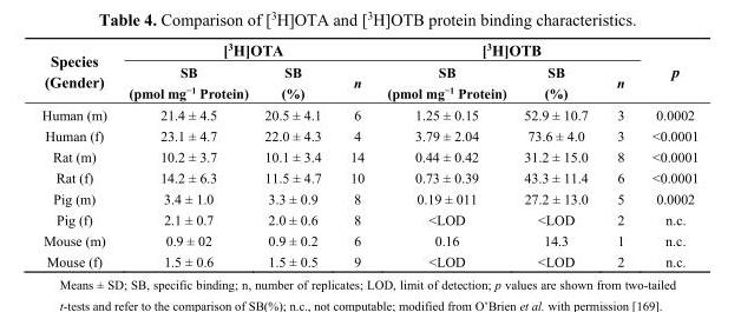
<table><thead><tr><td rowspan="2">Species (Gender)</td><td colspan="3">[<sup>3</sup>H]OTA</td><td colspan="3">[<sup>3</sup>H]OTB</td><td rowspan="2">p</td></tr><tr><td>SB (pmol mg<sup>−1</sup> Protein)</td><td>SB (%)</td><td>n</td><td>SB (pmol mg<sup>−1</sup> Protein)</td><td>SB (%)</td><td>n</td></tr></thead><tbody><tr><td>Human (m)</td><td>21.4 ± 4.5</td><td>20.5 ± 4.1</td><td>6</td><td>1.25 ± 0.15</td><td>52.9 ± 10.7</td><td>3</td><td>0.0002</td></tr><tr><td>Human (f)</td><td>23.1 ± 4.7</td><td>22.0 ± 4.3</td><td>4</td><td>3.79 ± 2.04</td><td>73.6 ± 4.0</td><td>3</td><td>&lt;0.0001</td></tr><tr><td>Rat (m)</td><td>10.2 ± 3.7</td><td>10.1 ± 3.4</td><td>14</td><td>0.44 ± 0.42</td><td>31.2 ± 15.0</td><td>8</td><td>&lt;0.0001</td></tr><tr><td>Rat (f)</td><td>14.2 ± 6.3</td><td>11.5 ± 4.7</td><td>10</td><td>0.73 ± 0.39</td><td>43.3 ± 11.4</td><td>6</td><td>&lt;0.0001</td></tr><tr><td>Pig (m)</td><td>3.4 ± 1.0</td><td>3.3 ± 0.9</td><td>8</td><td>0.19 ± 011</td><td>27.2 ± 13.0</td><td>5</td><td>0.0002</td></tr><tr><td>Pig (f)</td><td>2.1 ± 0.7</td><td>2.0 ± 0.6</td><td>8</td><td>&lt;LOD</td><td>&lt;LOD</td><td>2</td><td>n.c.</td></tr><tr><td>Mouse (m)</td><td>0.9 ± 02</td><td>0.9 ± 0.2</td><td>6</td><td>0.16</td><td>14.3</td><td>1</td><td>n.c.</td></tr><tr><td>Mouse (f)</td><td>1.5 ± 0.6</td><td>1.5 ± 0.5</td><td>9</td><td>&lt;LOD</td><td>&lt;LOD</td><td>2</td><td>n.c.</td></tr></tbody></table>